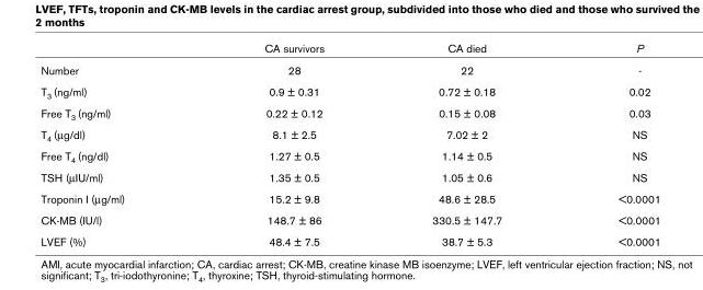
<table><thead><tr><td></td><td>CA survivors</td><td>CA died</td><td>P</td></tr></thead><tbody><tr><td>Number</td><td>28</td><td>22</td><td>-</td></tr><tr><td>T3 (ng/ml)</td><td>0.9 ± 0.31</td><td>0.72 ± 0.18</td><td>0.02</td></tr><tr><td>Free T3 (ng/ml)</td><td>0.22 ± 0.12</td><td>0.15 ± 0.08</td><td>0.03</td></tr><tr><td>T4 (µg/dl)</td><td>8.1 ± 2.5</td><td>7.02 ± 2</td><td>NS</td></tr><tr><td>Free T4 (ng/dl)</td><td>1.27 ± 0.5</td><td>1.14 ± 0.5</td><td>NS</td></tr><tr><td>TSH (µIU/ml)</td><td>1.35 ± 0.5</td><td>1.05 ± 0.6</td><td>NS</td></tr><tr><td>Troponin I (µg/ml)</td><td>15.2 ± 9.8</td><td>48.6 ± 28.5</td><td>&lt;0.0001</td></tr><tr><td>CK-MB (IU/l)</td><td>148.7 ± 86</td><td>330.5 ± 147.7</td><td>&lt;0.0001</td></tr><tr><td>LVEF (%)</td><td>48.4 ± 7.5</td><td>38.7 ± 5.3</td><td>&lt;0.0001</td></tr></tbody></table>